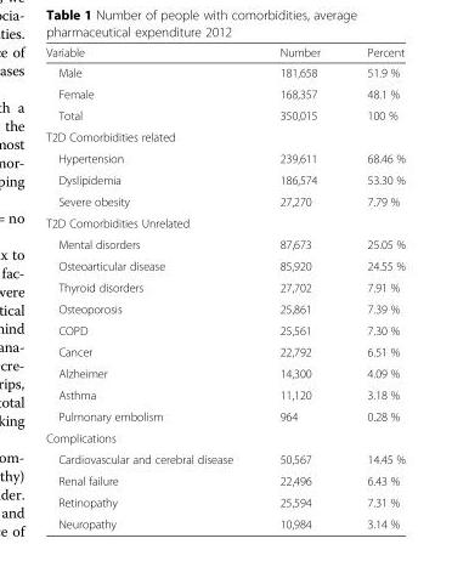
<table><thead><tr><td>Variable</td><td>Number</td><td>Percent</td></tr></thead><tbody><tr><td>Male</td><td>181,658</td><td>51.9 %</td></tr><tr><td>Female</td><td>168,357</td><td>48.1 %</td></tr><tr><td>Total</td><td>350,015</td><td>100 %</td></tr><tr><td colspan="3">T2D Comorbidities related</td></tr><tr><td>Hypertension</td><td>239,611</td><td>68.46 %</td></tr><tr><td>Dyslipidemia</td><td>186,574</td><td>53.30 %</td></tr><tr><td>Severe obesity</td><td>27,270</td><td>7.79 %</td></tr><tr><td colspan="3">T2D Comorbidities Unrelated</td></tr><tr><td>Mental disorders</td><td>87,673</td><td>25.05 %</td></tr><tr><td>Osteoarticular disease</td><td>85,920</td><td>24.55 %</td></tr><tr><td>Thyroid disorders</td><td>27,702</td><td>7.91 %</td></tr><tr><td>Osteoporosis</td><td>25,861</td><td>7.39 %</td></tr><tr><td>COPD</td><td>25,561</td><td>7.30 %</td></tr><tr><td>Cancer</td><td>22,792</td><td>6.51 %</td></tr><tr><td>Alzheimer</td><td>14,300</td><td>4.09 %</td></tr><tr><td>Asthma</td><td>11,120</td><td>3.18 %</td></tr><tr><td>Pulmonary embolism</td><td>964</td><td>0.28 %</td></tr><tr><td colspan="3">Complications</td></tr><tr><td>Cardiovascular and cerebral disease</td><td>50,567</td><td>14.45 %</td></tr><tr><td>Renal failure</td><td>22,496</td><td>6.43 %</td></tr><tr><td>Retinopathy</td><td>25,594</td><td>7.31 %</td></tr><tr><td>Neuropathy</td><td>10,984</td><td>3.14 %</td></tr></tbody></table>